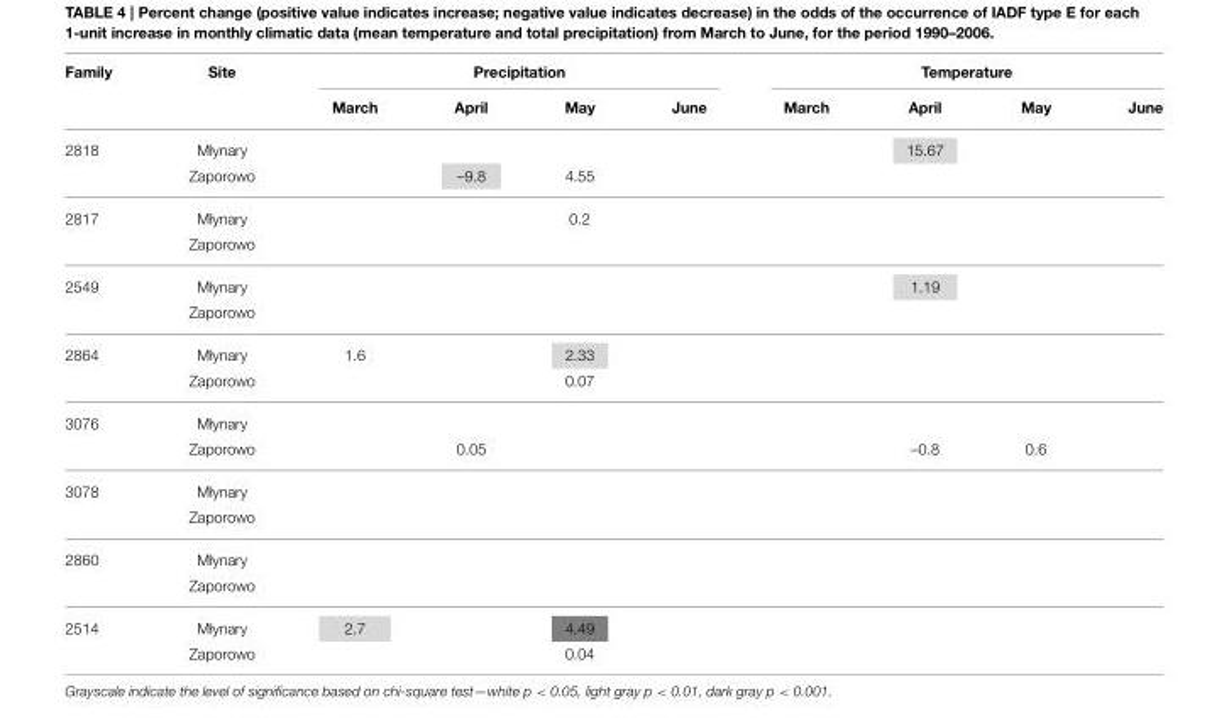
<table><thead><tr><td rowspan="2">Family</td><td rowspan="2">Site</td><td colspan="4">Precipitation</td><td colspan="4">Temperature</td></tr><tr><td>March</td><td>April</td><td>May</td><td>June</td><td>March</td><td>April</td><td>May</td><td>June</td></tr></thead><tbody><tr><td rowspan="2">2818</td><td>Młynary</td><td></td><td></td><td></td><td></td><td></td><td>15.67</td><td></td><td></td></tr><tr><td>Zaporowo</td><td></td><td>–9.8</td><td>4.55</td><td></td><td></td><td></td><td></td><td></td></tr><tr><td rowspan="2">2817</td><td>Młynary</td><td></td><td></td><td>0.2</td><td></td><td></td><td></td><td></td><td></td></tr><tr><td>Zaporowo</td><td></td><td></td><td></td><td></td><td></td><td></td><td></td><td></td></tr><tr><td rowspan="2">2549</td><td>Młynary</td><td></td><td></td><td></td><td></td><td></td><td>1.19</td><td></td><td></td></tr><tr><td>Zaporowo</td><td></td><td></td><td></td><td></td><td></td><td></td><td></td><td></td></tr><tr><td rowspan="2">2864</td><td>Młynary</td><td>1.6</td><td></td><td>2.33</td><td></td><td></td><td></td><td></td><td></td></tr><tr><td>Zaporowo</td><td></td><td></td><td>0.07</td><td></td><td></td><td></td><td></td><td></td></tr><tr><td rowspan="2">3076</td><td>Młynary</td><td></td><td></td><td></td><td></td><td></td><td></td><td></td><td></td></tr><tr><td>Zaporowo</td><td></td><td>0.05</td><td></td><td></td><td></td><td>–0.8</td><td>0.6</td><td></td></tr><tr><td rowspan="2">3078</td><td>Młynary</td><td></td><td></td><td></td><td></td><td></td><td></td><td></td><td></td></tr><tr><td>Zaporowo</td><td></td><td></td><td></td><td></td><td></td><td></td><td></td><td></td></tr><tr><td rowspan="2">2860</td><td>Młynary</td><td></td><td></td><td></td><td></td><td></td><td></td><td></td><td></td></tr><tr><td>Zaporowo</td><td></td><td></td><td></td><td></td><td></td><td></td><td></td><td></td></tr><tr><td rowspan="2">2514</td><td>Młynary</td><td>2.7</td><td></td><td>4.49</td><td></td><td></td><td></td><td></td><td></td></tr><tr><td>Zaporowo</td><td></td><td></td><td>0.04</td><td></td><td></td><td></td><td></td><td></td></tr></tbody></table>